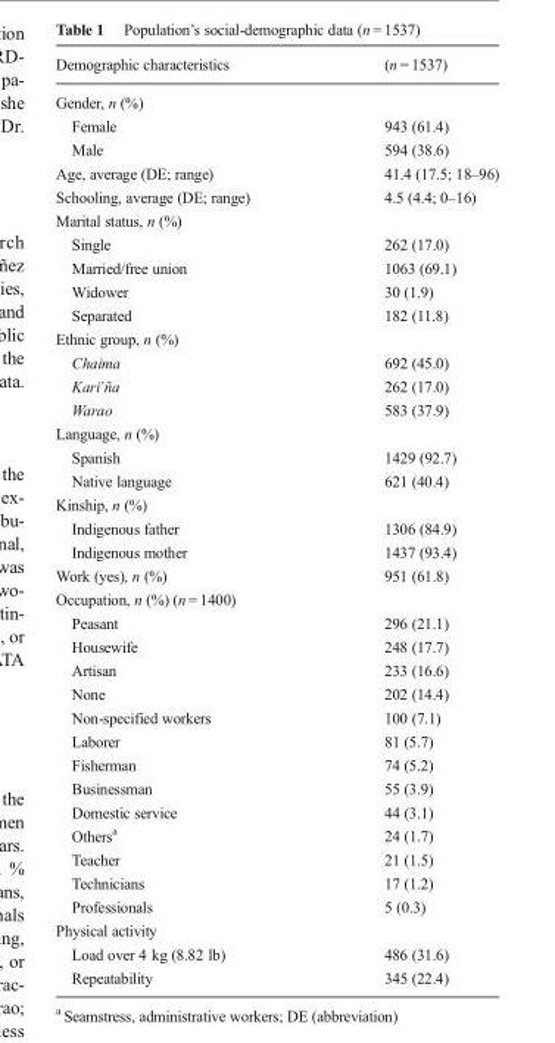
<table><thead><tr><td>Demographic characteristics</td><td>(n = 1537)</td></tr></thead><tbody><tr><td colspan="2">Gender, n (%)</td></tr><tr><td>Female</td><td>943 (61.4)</td></tr><tr><td>Male</td><td>594 (38.6)</td></tr><tr><td>Age, average (DE; range)</td><td>41.4 (17.5; 18–96)</td></tr><tr><td>Schooling, average (DE; range)</td><td>4.5 (4.4; 0–16)</td></tr><tr><td colspan="2">Marital status, n (%)</td></tr><tr><td>Single</td><td>262 (17.0)</td></tr><tr><td>Married/free union</td><td>1063 (69.1)</td></tr><tr><td>Widower</td><td>30 (1.9)</td></tr><tr><td>Separated</td><td>182 (11.8)</td></tr><tr><td colspan="2">Ethnic group, n (%)</td></tr><tr><td>Chaima</td><td>692 (45.0)</td></tr><tr><td>Kari’ña</td><td>262 (17.0)</td></tr><tr><td>Warao</td><td>583 (37.9)</td></tr><tr><td colspan="2">Language, n (%)</td></tr><tr><td>Spanish</td><td>1429 (92.7)</td></tr><tr><td>Native language</td><td>621 (40.4)</td></tr><tr><td colspan="2">Kinship, n (%)</td></tr><tr><td>Indigenous father</td><td>1306 (84.9)</td></tr><tr><td>Indigenous mother</td><td>1437 (93.4)</td></tr><tr><td>Work (yes), n (%)</td><td>951 (61.8)</td></tr><tr><td colspan="2">Occupation, n (%) (n = 1400)</td></tr><tr><td>Peasant</td><td>296 (21.1)</td></tr><tr><td>Housewife</td><td>248 (17.7)</td></tr><tr><td>Artisan</td><td>233 (16.6)</td></tr><tr><td>None</td><td>202 (14.4)</td></tr><tr><td>Non-specified workers</td><td>100 (7.1)</td></tr><tr><td>Laborer</td><td>81 (5.7)</td></tr><tr><td>Fisherman</td><td>74 (5.2)</td></tr><tr><td>Businessman</td><td>55 (3.9)</td></tr><tr><td>Domestic service</td><td>44 (3.1)</td></tr><tr><td>Others<sup>a</sup></td><td>24 (1.7)</td></tr><tr><td>Teacher</td><td>21 (1.5)</td></tr><tr><td>Technicians</td><td>17 (1.2)</td></tr><tr><td>Professionals</td><td>5 (0.3)</td></tr><tr><td colspan="2">Physical activity</td></tr><tr><td>Load over 4 kg (8.82 lb)</td><td>486 (31.6)</td></tr><tr><td>Repeatability</td><td>345 (22.4)</td></tr></tbody></table>